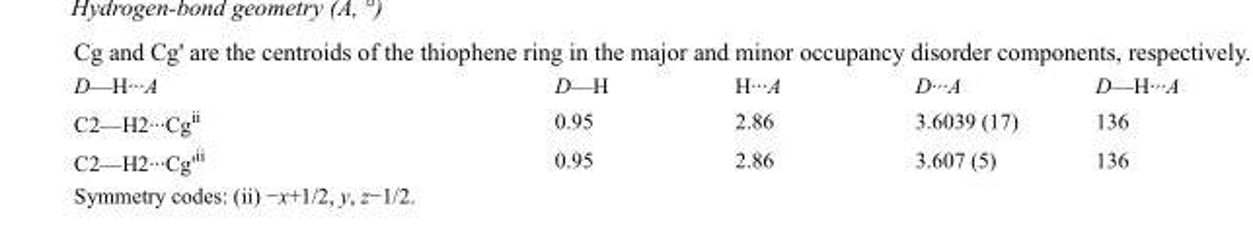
<table><tbody><tr><td>D—H···A</td><td>D—H</td><td>H···A</td><td>D···A</td><td>D—H···A</td></tr><tr><td>C2—H2···Cg<sup>ii</sup></td><td>0.95</td><td>2.86</td><td>3.6039 (17)</td><td>136</td></tr><tr><td>C2—H2···Cg&#x27;<sup>ii</sup></td><td>0.95</td><td>2.86</td><td>3.607 (5)</td><td>136</td></tr></tbody></table>